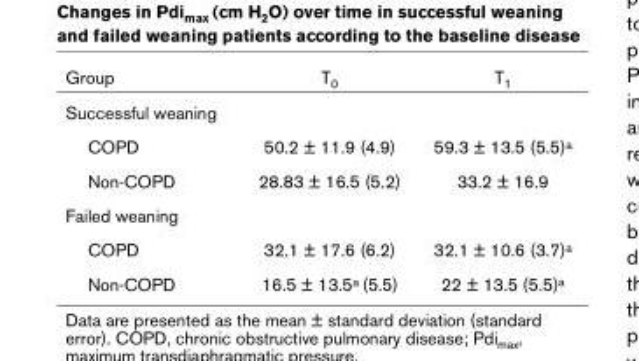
<table><thead><tr><td>Group</td><td>T<sub>0</sub></td><td>T<sub>1</sub></td></tr></thead><tbody><tr><td colspan="3">Successful weaning</td></tr><tr><td>COPD</td><td>50.2 ± 11.9 (4.9)</td><td>59.3 ± 13.5 (5.5)<sup>a</sup></td></tr><tr><td>Non-COPD</td><td>28.83 ± 16.5 (5.2)</td><td>33.2 ± 16.9</td></tr><tr><td colspan="3">Failed weaning</td></tr><tr><td>COPD</td><td>32.1 ± 17.6 (6.2)</td><td>32.1 ± 10.6 (3.7)<sup>a</sup></td></tr><tr><td>Non-COPD</td><td>16.5 ± 13.5<sup>a</sup> (5.5)</td><td>22 ± 13.5 (5.5)<sup>a</sup></td></tr></tbody></table>